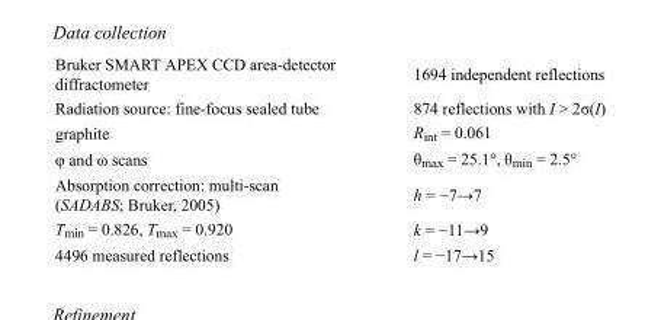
<table><tbody><tr><td>Bruker SMART APEX CCD area-detector diffractometer</td><td>1694 independent reflections</td></tr><tr><td>Radiation source: fine-focus sealed tube</td><td>874 reflections with I &gt; 2σ(I)</td></tr><tr><td>graphite</td><td>R<sub>int</sub> = 0.061</td></tr><tr><td>φ and ω scans</td><td>θ<sub>max</sub> = 25.1°, θ<sub>min</sub> = 2.5°</td></tr><tr><td>Absorption correction: multi-scan (SADABS; Bruker, 2005)</td><td>h = −7→7</td></tr><tr><td>T<sub>min</sub> = 0.826, T<sub>max</sub> = 0.920</td><td>k = −11→9</td></tr><tr><td>4496 measured reflections</td><td>l = −17→15</td></tr></tbody></table>